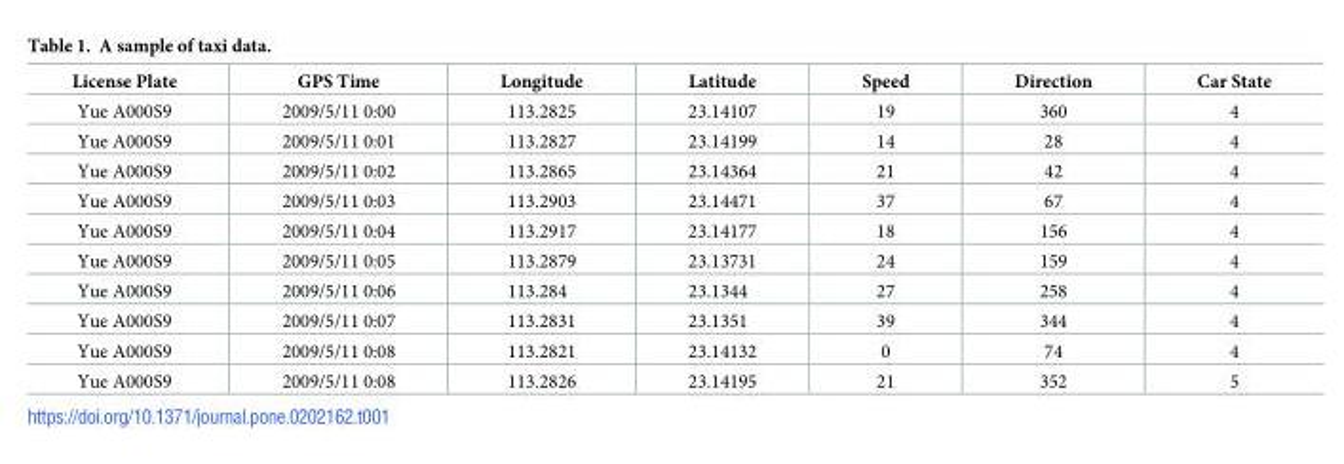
<table><thead><tr><td>License Plate</td><td>GPS Time</td><td>Longitude</td><td>Latitude</td><td>Speed</td><td>Direction</td><td>Car State</td></tr></thead><tbody><tr><td>Yue A000S9</td><td>2009/5/11 0:00</td><td>113.2825</td><td>23.14107</td><td>19</td><td>360</td><td>4</td></tr><tr><td>Yue A000S9</td><td>2009/5/11 0:01</td><td>113.2827</td><td>23.14199</td><td>14</td><td>28</td><td>4</td></tr><tr><td>Yue A000S9</td><td>2009/5/11 0:02</td><td>113.2865</td><td>23.14364</td><td>21</td><td>42</td><td>4</td></tr><tr><td>Yue A000S9</td><td>2009/5/11 0:03</td><td>113.2903</td><td>23.14471</td><td>37</td><td>67</td><td>4</td></tr><tr><td>Yue A000S9</td><td>2009/5/11 0:04</td><td>113.2917</td><td>23.14177</td><td>18</td><td>156</td><td>4</td></tr><tr><td>Yue A000S9</td><td>2009/5/11 0:05</td><td>113.2879</td><td>23.13731</td><td>24</td><td>159</td><td>4</td></tr><tr><td>Yue A000S9</td><td>2009/5/11 0:06</td><td>113.284</td><td>23.1344</td><td>27</td><td>258</td><td>4</td></tr><tr><td>Yue A000S9</td><td>2009/5/11 0:07</td><td>113.2831</td><td>23.1351</td><td>39</td><td>344</td><td>4</td></tr><tr><td>Yue A000S9</td><td>2009/5/11 0:08</td><td>113.2821</td><td>23.14132</td><td>0</td><td>74</td><td>4</td></tr><tr><td>Yue A000S9</td><td>2009/5/11 0:08</td><td>113.2826</td><td>23.14195</td><td>21</td><td>352</td><td>5</td></tr></tbody></table>